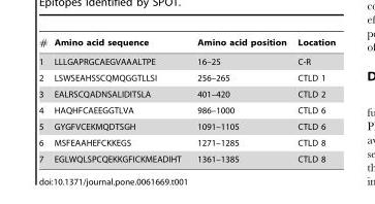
<table><thead><tr><td>#</td><td>Amino acid sequence</td><td>Amino acid position</td><td>Location</td></tr></thead><tbody><tr><td>1</td><td>LLLGAPRGCAEGVAAALTPE</td><td>16–25</td><td>C-R</td></tr><tr><td>2</td><td>LSWSEAHSSCQMQGGTLLSI</td><td>256–265</td><td>CTLD 1</td></tr><tr><td>3</td><td>EALRSCQADNSALIDITSLA</td><td>401–420</td><td>CTLD 2</td></tr><tr><td>4</td><td>HAQHFCAEEGGTLVA</td><td>986–1000</td><td>CTLD 6</td></tr><tr><td>5</td><td>GYGFVCEKMQDTSGH</td><td>1091–1105</td><td>CTLD 6</td></tr><tr><td>6</td><td>MSFEAAHEFCKKEGS</td><td>1271–1285</td><td>CTLD 8</td></tr><tr><td>7</td><td>EGLWQLSPCQEKKGFICKMEADIHT</td><td>1361–1385</td><td>CTLD 8</td></tr></tbody></table>